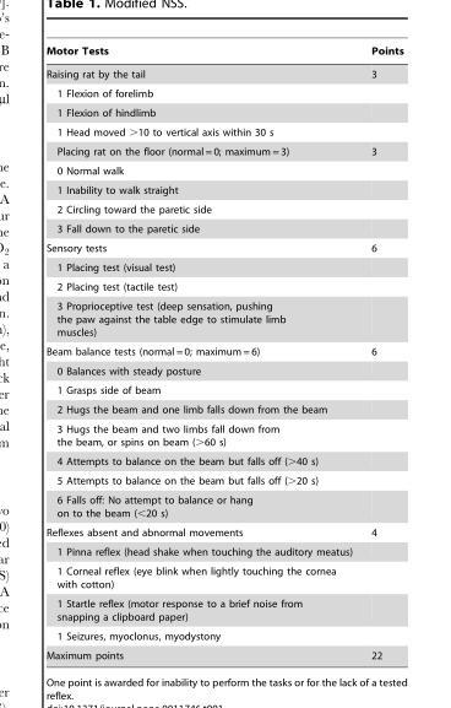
<table><thead><tr><td>Motor Tests</td><td>Points</td></tr></thead><tbody><tr><td>Raising rat by the tail</td><td>3</td></tr><tr><td colspan="2">1 Flexion of forelimb</td></tr><tr><td colspan="2">1 Flexion of hindlimb</td></tr><tr><td colspan="2">1 Head moved &gt;10 to vertical axis within 30 s</td></tr><tr><td>Placing rat on the floor (normal = 0; maximum = 3)</td><td>3</td></tr><tr><td colspan="2">0 Normal walk</td></tr><tr><td colspan="2">1 Inability to walk straight</td></tr><tr><td colspan="2">2 Circling toward the paretic side</td></tr><tr><td colspan="2">3 Fall down to the paretic side</td></tr><tr><td>Sensory tests</td><td>6</td></tr><tr><td colspan="2">1 Placing test (visual test)</td></tr><tr><td colspan="2">2 Placing test (tactile test)</td></tr><tr><td colspan="2">3 Proprioceptive test (deep sensation, pushing the paw against the table edge to stimulate limb muscles)</td></tr><tr><td>Beam balance tests (normal = 0; maximum = 6)</td><td>6</td></tr><tr><td colspan="2">0 Balances with steady posture</td></tr><tr><td colspan="2">1 Grasps side of beam</td></tr><tr><td colspan="2">2 Hugs the beam and one limb falls down from the beam</td></tr><tr><td colspan="2">3 Hugs the beam and two limbs fall down from the beam, or spins on beam (&gt;60 s)</td></tr><tr><td colspan="2">4 Attempts to balance on the beam but falls off (&gt;40 s)</td></tr><tr><td colspan="2">5 Attempts to balance on the beam but falls off (&gt;20 s)</td></tr><tr><td colspan="2">6 Falls off: No attempt to balance or hang on to the beam (&lt;20 s)</td></tr><tr><td>Reflexes absent and abnormal movements</td><td>4</td></tr><tr><td colspan="2">1 Pinna reflex (head shake when touching the auditory meatus)</td></tr><tr><td colspan="2">1 Corneal reflex (eye blink when lightly touching the cornea with cotton)</td></tr><tr><td colspan="2">1 Startle reflex (motor response to a brief noise from snapping a clipboard paper)</td></tr><tr><td colspan="2">1 Seizures, myoclonus, myodystony</td></tr><tr><td>Maximum points</td><td>22</td></tr></tbody></table>